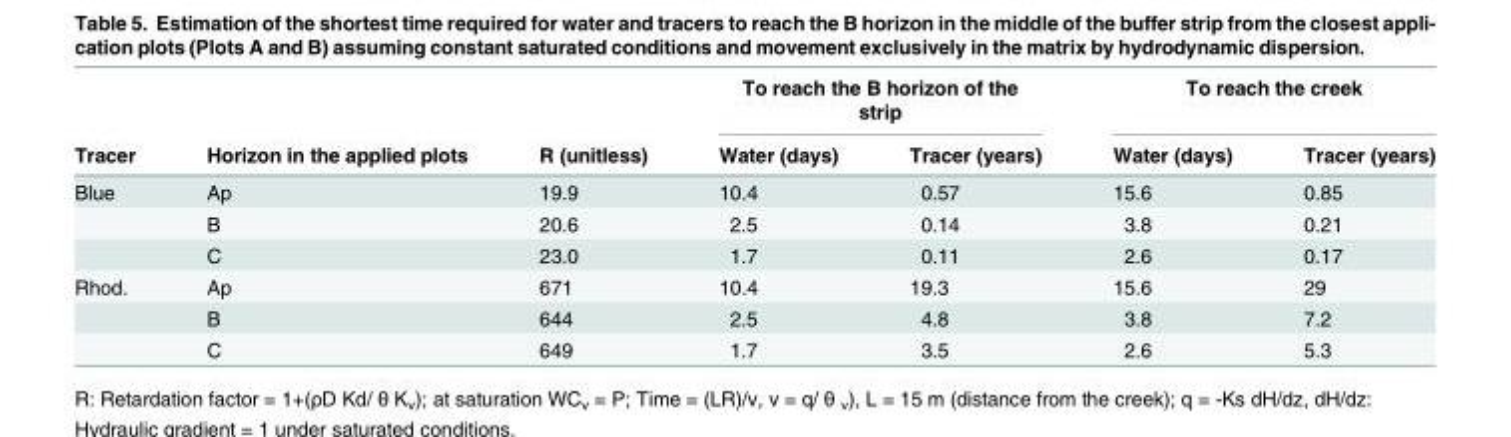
<table><thead><tr><td rowspan="2">Tracer</td><td rowspan="2">Horizon in the applied plots</td><td rowspan="2">R (unitless)</td><td colspan="2">To reach the B horizon of the strip</td><td colspan="2">To reach the creek</td></tr><tr><td>Water (days)</td><td>Tracer (years)</td><td>Water (days)</td><td>Tracer (years)</td></tr></thead><tbody><tr><td rowspan="3">Blue</td><td>Ap</td><td>19.9</td><td>10.4</td><td>0.57</td><td>15.6</td><td>0.85</td></tr><tr><td>B</td><td>20.6</td><td>2.5</td><td>0.14</td><td>3.8</td><td>0.21</td></tr><tr><td>C</td><td>23.0</td><td>1.7</td><td>0.11</td><td>2.6</td><td>0.17</td></tr><tr><td rowspan="3">Rhod.</td><td>Ap</td><td>671</td><td>10.4</td><td>19.3</td><td>15.6</td><td>29</td></tr><tr><td>B</td><td>644</td><td>2.5</td><td>4.8</td><td>3.8</td><td>7.2</td></tr><tr><td>C</td><td>649</td><td>1.7</td><td>3.5</td><td>2.6</td><td>5.3</td></tr></tbody></table>